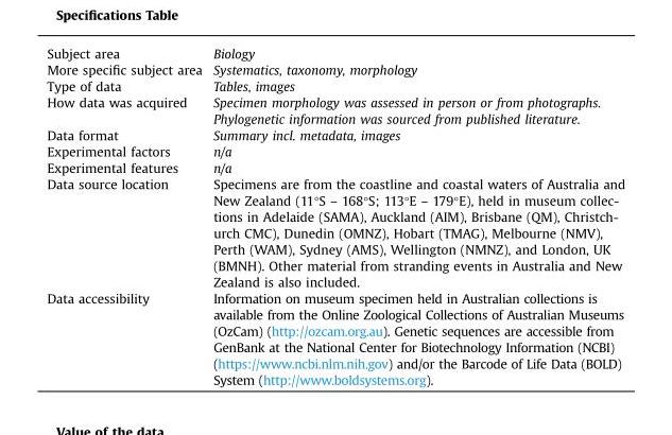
<table><thead><tr><td>Subject area</td><td>Biology</td></tr></thead><tbody><tr><td>More specific subject area</td><td>Systematics, taxonomy, morphology</td></tr><tr><td>Type of data</td><td>Tables, images</td></tr><tr><td>How data was acquired</td><td>Specimen morphology was assessed in person or from photographs. Phylogenetic information was sourced from published literature.</td></tr><tr><td>Data format</td><td>Summary incl. metadata, images</td></tr><tr><td>Experimental factors</td><td>n/a</td></tr><tr><td>Experimental features</td><td>n/a</td></tr><tr><td>Data source location</td><td>Specimens are from the coastline and coastal waters of Australia and New Zealand (11°S – 168°S; 113°E – 179°E), held in museum collec- tions in Adelaide (SAMA), Auckland (AIM), Brisbane (QM), Christch- urch CMC), Dunedin (OMNZ), Hobart (TMAG), Melbourne (NMV), Perth (WAM), Sydney (AMS), Wellington (NMNZ), and London, UK (BMNH). Other material from stranding events in Australia and New Zealand is also included.</td></tr><tr><td>Data accessibility</td><td>Information on museum specimen held in Australian collections is available from the Online Zoological Collections of Australian Museums (OzCam) (http://ozcam.org.au). Genetic sequences are accessible from GenBank at the National Center for Biotechnology Information (NCBI) (https://www.ncbi.nlm.nih.gov) and/or the Barcode of Life Data (BOLD) System (http://www.boldsystems.org).</td></tr></tbody></table>